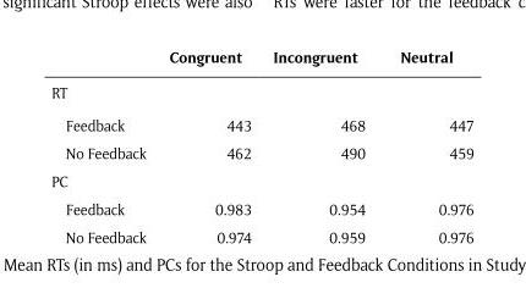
<table><thead><tr><td></td><td>Congruent</td><td>Incongruent</td><td>Neutral</td></tr></thead><tbody><tr><td colspan="4">RT</td></tr><tr><td>Feedback</td><td>443</td><td>468</td><td>447</td></tr><tr><td>No Feedback</td><td>462</td><td>490</td><td>459</td></tr><tr><td colspan="4">PC</td></tr><tr><td>Feedback</td><td>0.983</td><td>0.954</td><td>0.976</td></tr><tr><td>No Feedback</td><td>0.974</td><td>0.959</td><td>0.976</td></tr></tbody></table>